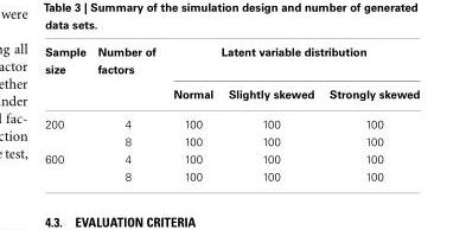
<table><thead><tr><td rowspan="2">Sample size</td><td rowspan="2">Number of factors</td><td colspan="3">Latent variable distribution</td></tr><tr><td>Normal</td><td>Slightly skewed</td><td>Strongly skewed</td></tr></thead><tbody><tr><td rowspan="2">200</td><td>4</td><td>100</td><td>100</td><td>100</td></tr><tr><td>8</td><td>100</td><td>100</td><td>100</td></tr><tr><td rowspan="2">600</td><td>4</td><td>100</td><td>100</td><td>100</td></tr><tr><td>8</td><td>100</td><td>100</td><td>100</td></tr></tbody></table>